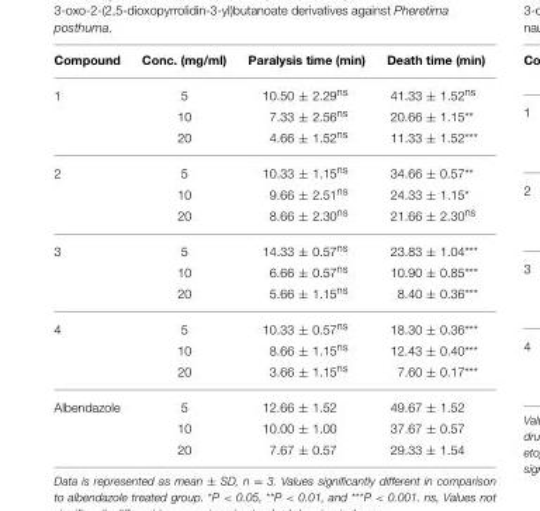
<table><thead><tr><td>Compound</td><td>Conc. (mg/ml)</td><td>Paralysis time (min)</td><td>Death time (min)</td></tr></thead><tbody><tr><td rowspan="3">1</td><td>5</td><td>10.50 ± 2.29<sup>ns</sup></td><td>41.33 ± 1.52<sup>ns</sup></td></tr><tr><td>10</td><td>7.33 ± 2.56<sup>ns</sup></td><td>20.66 ± 1.15**</td></tr><tr><td>20</td><td>4.66 ± 1.52<sup>ns</sup></td><td>11.33 ± 1.52***</td></tr><tr><td rowspan="3">2</td><td>5</td><td>10.33 ± 1.15<sup>ns</sup></td><td>34.66 ± 0.57**</td></tr><tr><td>10</td><td>9.66 ± 2.51<sup>ns</sup></td><td>24.33 ± 1.15*</td></tr><tr><td>20</td><td>8.66 ± 2.30<sup>ns</sup></td><td>21.66 ± 2.30<sup>ns</sup></td></tr><tr><td rowspan="3">3</td><td>5</td><td>14.33 ± 0.57<sup>ns</sup></td><td>23.83 ± 1.04***</td></tr><tr><td>10</td><td>6.66 ± 0.57<sup>ns</sup></td><td>10.90 ± 0.85***</td></tr><tr><td>20</td><td>5.66 ± 1.15<sup>ns</sup></td><td>8.40 ± 0.36***</td></tr><tr><td rowspan="3">4</td><td>5</td><td>10.33 ± 0.57<sup>ns</sup></td><td>18.30 ± 0.36***</td></tr><tr><td>10</td><td>8.66 ± 1.15<sup>ns</sup></td><td>12.43 ± 0.40***</td></tr><tr><td>20</td><td>3.66 ± 1.15<sup>ns</sup></td><td>7.60 ± 0.17***</td></tr><tr><td rowspan="3">Albendazole</td><td>5</td><td>12.66 ± 1.52</td><td>49.67 ± 1.52</td></tr><tr><td>10</td><td>10.00 ± 1.00</td><td>37.67 ± 0.57</td></tr><tr><td>20</td><td>7.67 ± 0.57</td><td>29.33 ± 1.54</td></tr></tbody></table>